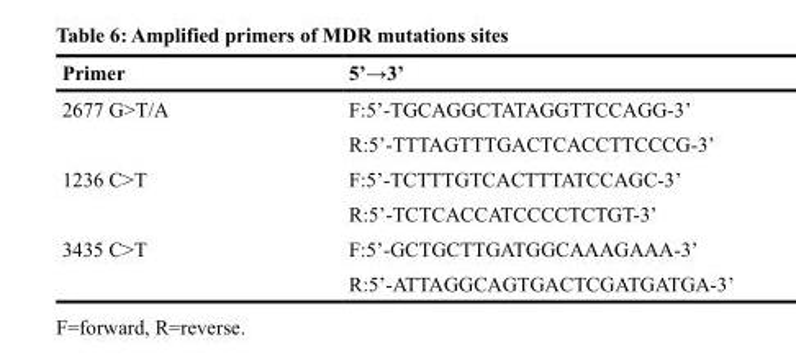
<table><thead><tr><td>Primer</td><td>5’→3’</td></tr></thead><tbody><tr><td rowspan="2">2677 G&gt;T/A</td><td>F:5’-TGCAGGCTATAGGTTCCAGG-3’</td></tr><tr><td>R:5’-TTTAGTTTGACTCACCTTCCCG-3’</td></tr><tr><td rowspan="2">1236 C&gt;T</td><td>F:5’-TCTTTGTCACTTTATCCAGC-3’</td></tr><tr><td>R:5’-TCTCACCATCCCCTCTGT-3’</td></tr><tr><td rowspan="2">3435 C&gt;T</td><td>F:5’-GCTGCTTGATGGCAAAGAAA-3’</td></tr><tr><td>R:5’-ATTAGGCAGTGACTCGATGATGA-3’</td></tr></tbody></table>